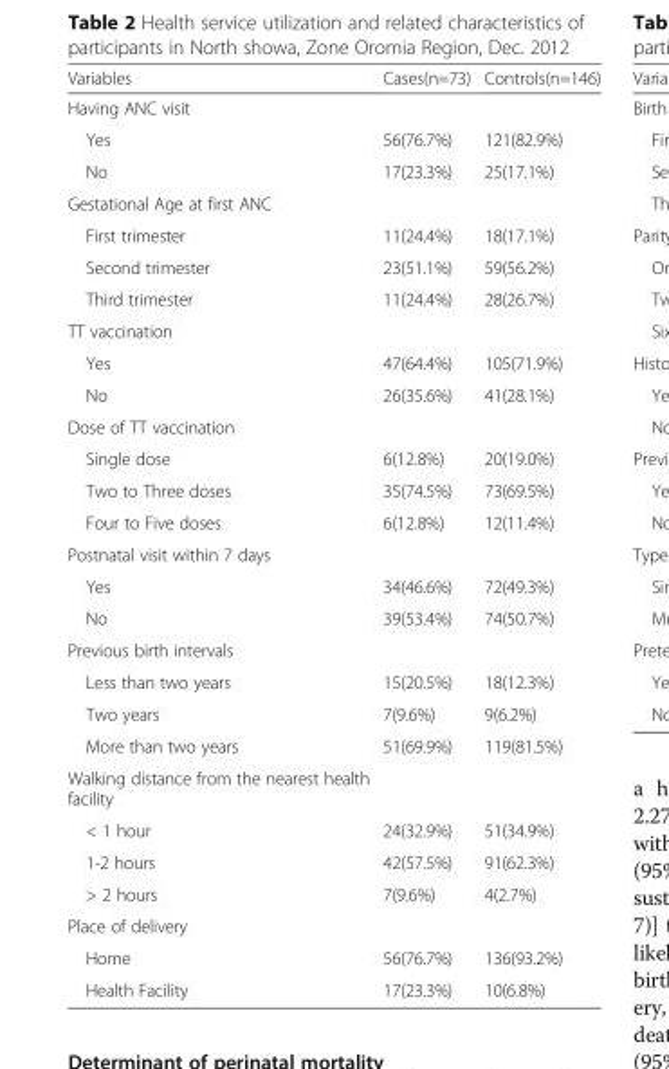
<table><thead><tr><td>Variables</td><td>Cases(n=73)</td><td>Controls(n=146)</td></tr></thead><tbody><tr><td colspan="3">Having ANC visit</td></tr><tr><td>Yes</td><td>56(76.7%)</td><td>121(82.9%)</td></tr><tr><td>No</td><td>17(23.3%)</td><td>25(17.1%)</td></tr><tr><td colspan="3">Gestational Age at first ANC</td></tr><tr><td>First trimester</td><td>11(24.4%)</td><td>18(17.1%)</td></tr><tr><td>Second trimester</td><td>23(51.1%)</td><td>59(56.2%)</td></tr><tr><td>Third trimester</td><td>11(24.4%)</td><td>28(26.7%)</td></tr><tr><td colspan="3">TT vaccination</td></tr><tr><td>Yes</td><td>47(64.4%)</td><td>105(71.9%)</td></tr><tr><td>No</td><td>26(35.6%)</td><td>41(28.1%)</td></tr><tr><td colspan="3">Dose of TT vaccination</td></tr><tr><td>Single dose</td><td>6(12.8%)</td><td>20(19.0%)</td></tr><tr><td>Two to Three doses</td><td>35(74.5%)</td><td>73(69.5%)</td></tr><tr><td>Four to Five doses</td><td>6(12.8%)</td><td>12(11.4%)</td></tr><tr><td colspan="3">Postnatal visit within 7 days</td></tr><tr><td>Yes</td><td>34(46.6%)</td><td>72(49.3%)</td></tr><tr><td>No</td><td>39(53.4%)</td><td>74(50.7%)</td></tr><tr><td colspan="3">Previous birth intervals</td></tr><tr><td>Less than two years</td><td>15(20.5%)</td><td>18(12.3%)</td></tr><tr><td>Two years</td><td>7(9.6%)</td><td>9(6.2%)</td></tr><tr><td>More than two years</td><td>51(69.9%)</td><td>119(81.5%)</td></tr><tr><td colspan="3">Walking distance from the nearest health facility</td></tr><tr><td>&lt; 1 hour</td><td>24(32.9%)</td><td>51(34.9%)</td></tr><tr><td>1-2 hours</td><td>42(57.5%)</td><td>91(62.3%)</td></tr><tr><td>&gt; 2 hours</td><td>7(9.6%)</td><td>4(2.7%)</td></tr><tr><td colspan="3">Place of delivery</td></tr><tr><td>Home</td><td>56(76.7%)</td><td>136(93.2%)</td></tr><tr><td>Health Facility</td><td>17(23.3%)</td><td>10(6.8%)</td></tr></tbody></table>